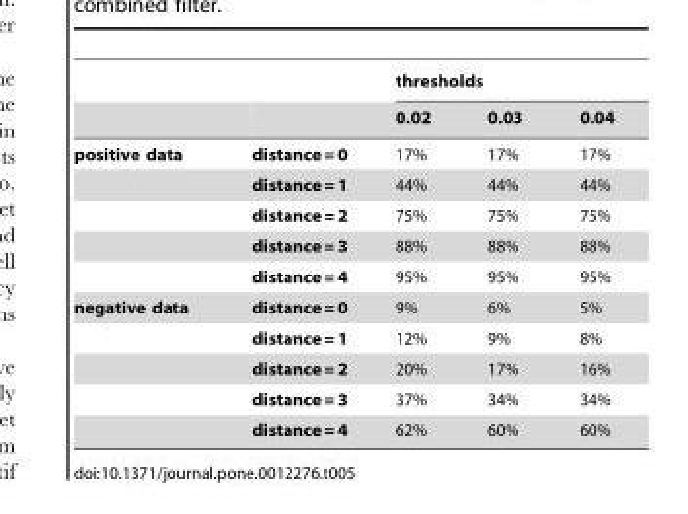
<table><thead><tr><td rowspan="2"></td><td rowspan="2"></td><td colspan="3">thresholds</td></tr><tr><td>0.02</td><td>0.03</td><td>0.04</td></tr></thead><tbody><tr><td rowspan="5">positive data</td><td>distance = 0</td><td>17%</td><td>17%</td><td>17%</td></tr><tr><td>distance = 1</td><td>44%</td><td>44%</td><td>44%</td></tr><tr><td>distance = 2</td><td>75%</td><td>75%</td><td>75%</td></tr><tr><td>distance = 3</td><td>88%</td><td>88%</td><td>88%</td></tr><tr><td>distance = 4</td><td>95%</td><td>95%</td><td>95%</td></tr><tr><td rowspan="5">negative data</td><td>distance = 0</td><td>9%</td><td>6%</td><td>5%</td></tr><tr><td>distance = 1</td><td>12%</td><td>9%</td><td>8%</td></tr><tr><td>distance = 2</td><td>20%</td><td>17%</td><td>16%</td></tr><tr><td>distance = 3</td><td>37%</td><td>34%</td><td>34%</td></tr><tr><td>distance = 4</td><td>62%</td><td>60%</td><td>60%</td></tr></tbody></table>